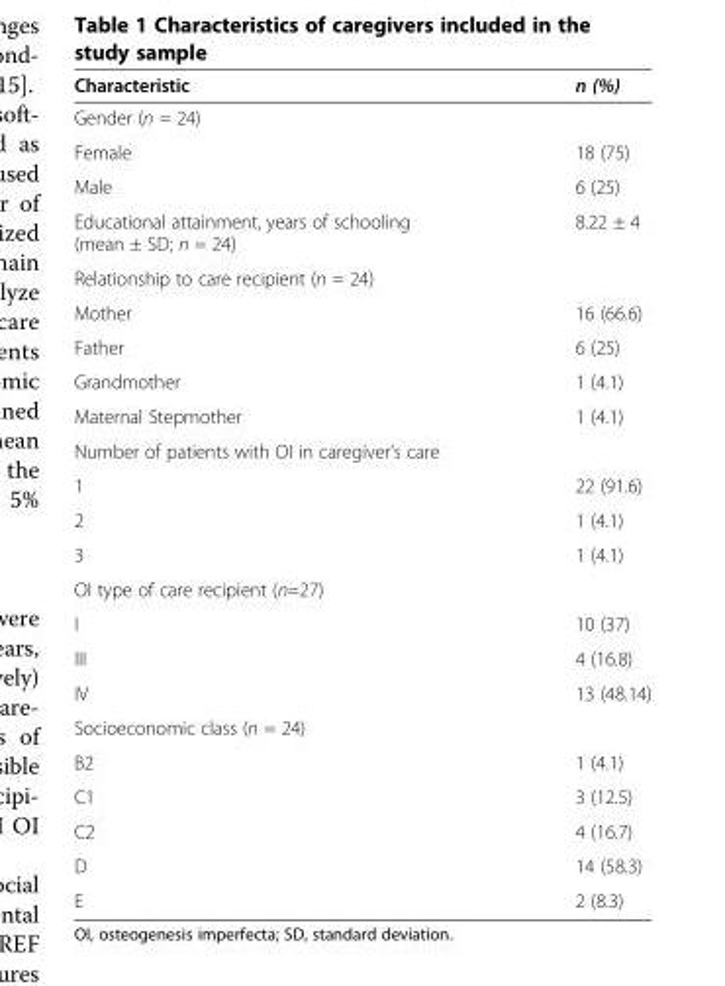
<table><thead><tr><td>Characteristic</td><td>n (%)</td></tr></thead><tbody><tr><td colspan="2">Gender (n = 24)</td></tr><tr><td>Female</td><td>18 (75)</td></tr><tr><td>Male</td><td>6 (25)</td></tr><tr><td>Educational attainment, years of schooling (mean ± SD; n = 24)</td><td>8.22 ± 4</td></tr><tr><td colspan="2">Relationship to care recipient (n = 24)</td></tr><tr><td>Mother</td><td>16 (66.6)</td></tr><tr><td>Father</td><td>6 (25)</td></tr><tr><td>Grandmother</td><td>1 (4.1)</td></tr><tr><td>Maternal Stepmother</td><td>1 (4.1)</td></tr><tr><td colspan="2">Number of patients with OI in caregiver’s care</td></tr><tr><td>1</td><td>22 (91.6)</td></tr><tr><td>2</td><td>1 (4.1)</td></tr><tr><td>3</td><td>1 (4.1)</td></tr><tr><td colspan="2">OI type of care recipient (n=27)</td></tr><tr><td>I</td><td>10 (37)</td></tr><tr><td>III</td><td>4 (16.8)</td></tr><tr><td>IV</td><td>13 (48.14)</td></tr><tr><td colspan="2">Socioeconomic class (n = 24)</td></tr><tr><td>B2</td><td>1 (4.1)</td></tr><tr><td>C1</td><td>3 (12.5)</td></tr><tr><td>C2</td><td>4 (16.7)</td></tr><tr><td>D</td><td>14 (58.3)</td></tr><tr><td>E</td><td>2 (8.3)</td></tr></tbody></table>